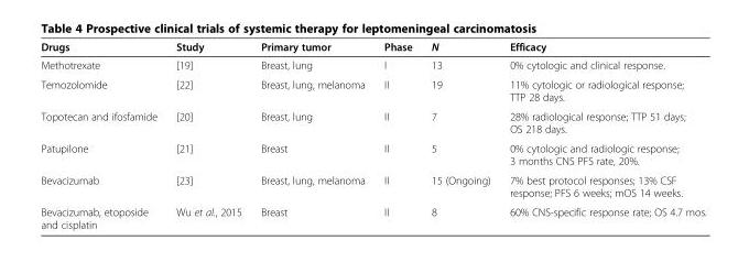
<table><thead><tr><td>Drugs</td><td>Study</td><td>Primary tumor</td><td>Phase</td><td>N</td><td>Efficacy</td></tr></thead><tbody><tr><td>Methotrexate</td><td>[19]</td><td>Breast, lung</td><td>I</td><td>13</td><td>0% cytologic and clinical response.</td></tr><tr><td>Temozolomide</td><td>[22]</td><td>Breast, lung, melanoma</td><td>II</td><td>19</td><td>11% cytologic or radiological response; TTP 28 days.</td></tr><tr><td>Topotecan and ifosfamide</td><td>[20]</td><td>Breast, lung</td><td>II</td><td>7</td><td>28% radiological response; TTP 51 days; OS 218 days.</td></tr><tr><td>Patupilone</td><td>[21]</td><td>Breast</td><td>II</td><td>5</td><td>0% cytologic and radiologic response; 3 months CNS PFS rate, 20%.</td></tr><tr><td>Bevacizumab</td><td>[23]</td><td>Breast, lung, melanoma</td><td>II</td><td>15 (Ongoing)</td><td>7% best protocol responses; 13% CSF response; PFS 6 weeks; mOS 14 weeks.</td></tr><tr><td>Bevacizumab, etoposide and cisplatin</td><td>Wu et al., 2015</td><td>Breast</td><td>II</td><td>8</td><td>60% CNS-specific response rate; OS 4.7 mos.</td></tr></tbody></table>